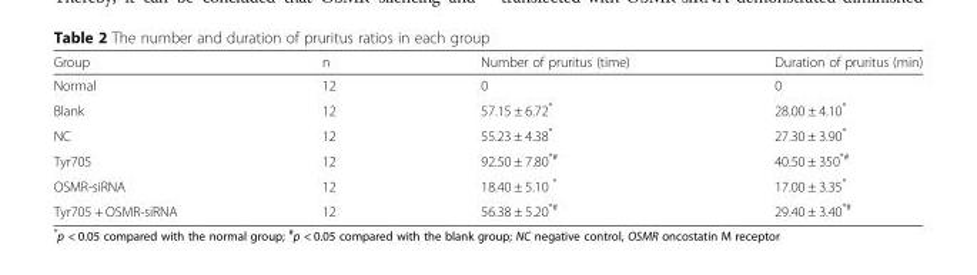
<table><thead><tr><td>Group</td><td>n</td><td>Number of pruritus (time)</td><td>Duration of pruritus (min)</td></tr></thead><tbody><tr><td>Normal</td><td>12</td><td>0</td><td>0</td></tr><tr><td>Blank</td><td>12</td><td>57.15 ± 6.72*</td><td>28.00 ± 4.10*</td></tr><tr><td>NC</td><td>12</td><td>55.23 ± 4.38*</td><td>27.30 ± 3.90*</td></tr><tr><td>Tyr705</td><td>12</td><td>92.50 ± 7.80<sup>*#</sup></td><td>40.50 ± 350<sup>*#</sup></td></tr><tr><td>OSMR-siRNA</td><td>12</td><td>18.40 ± 5.10 *</td><td>17.00 ± 3.35*</td></tr><tr><td>Tyr705 + OSMR-siRNA</td><td>12</td><td>56.38 ± 5.20<sup>*#</sup></td><td>29.40 ± 3.40<sup>*#</sup></td></tr></tbody></table>